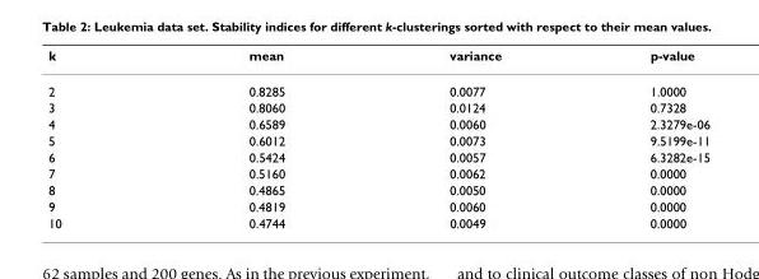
<table><thead><tr><td>k</td><td>mean</td><td>variance</td><td>p-value</td></tr></thead><tbody><tr><td>2</td><td>0.8285</td><td>0.0077</td><td>1.0000</td></tr><tr><td>3</td><td>0.8060</td><td>0.0124</td><td>0.7328</td></tr><tr><td>4</td><td>0.6589</td><td>0.0060</td><td>2.3279e-06</td></tr><tr><td>5</td><td>0.6012</td><td>0.0073</td><td>9.5199e-11</td></tr><tr><td>6</td><td>0.5424</td><td>0.0057</td><td>6.3282e-15</td></tr><tr><td>7</td><td>0.5160</td><td>0.0062</td><td>0.0000</td></tr><tr><td>8</td><td>0.4865</td><td>0.0050</td><td>0.0000</td></tr><tr><td>9</td><td>0.4819</td><td>0.0060</td><td>0.0000</td></tr><tr><td>10</td><td>0.4744</td><td>0.0049</td><td>0.0000</td></tr></tbody></table>